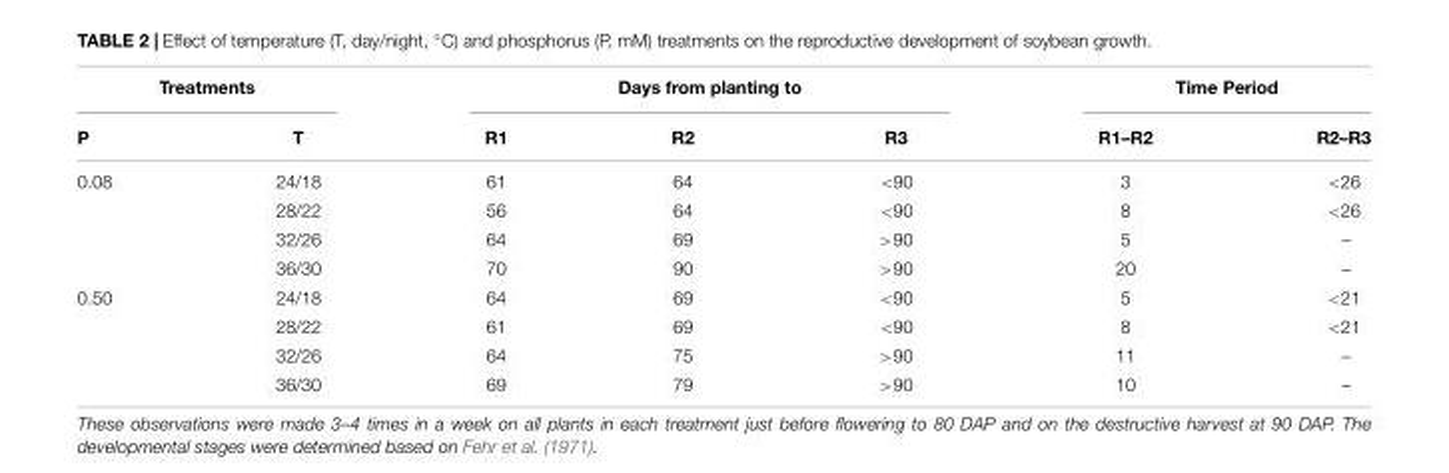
<table><thead><tr><td colspan="2">Treatments</td><td colspan="3">Days from planting to</td><td colspan="2">Time Period</td></tr><tr><td>P</td><td>T</td><td>R1</td><td>R2</td><td>R3</td><td>R1–R2</td><td>R2–R3</td></tr></thead><tbody><tr><td rowspan="4">0.08</td><td>24/18</td><td>61</td><td>64</td><td>&lt;90</td><td>3</td><td>&lt;26</td></tr><tr><td>28/22</td><td>56</td><td>64</td><td>&lt;90</td><td>8</td><td>&lt;26</td></tr><tr><td>32/26</td><td>64</td><td>69</td><td>&gt;90</td><td>5</td><td>–</td></tr><tr><td>36/30</td><td>70</td><td>90</td><td>&gt;90</td><td>20</td><td>–</td></tr><tr><td rowspan="4">0.50</td><td>24/18</td><td>64</td><td>69</td><td>&lt;90</td><td>5</td><td>&lt;21</td></tr><tr><td>28/22</td><td>61</td><td>69</td><td>&lt;90</td><td>8</td><td>&lt;21</td></tr><tr><td>32/26</td><td>64</td><td>75</td><td>&gt;90</td><td>11</td><td>–</td></tr><tr><td>36/30</td><td>69</td><td>79</td><td>&gt;90</td><td>10</td><td>–</td></tr></tbody></table>